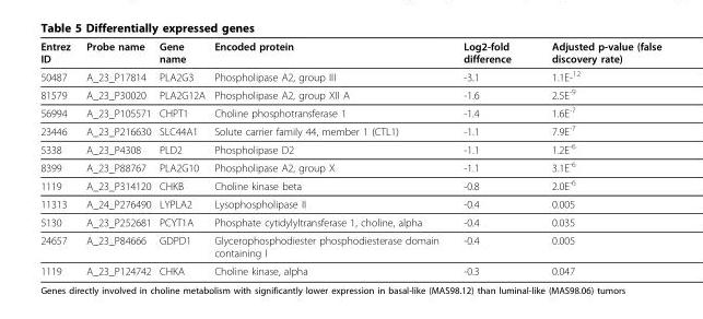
<table><thead><tr><td>Entrez ID</td><td>Probe name</td><td>Gene name</td><td>Encoded protein</td><td>Log2-fold difference</td><td>Adjusted p-value (false discovery rate)</td></tr></thead><tbody><tr><td>50487</td><td>A_23_P17814</td><td>PLA2G3</td><td>Phospholipase A2, group III</td><td>-3.1</td><td>1.1E-<sup>12</sup></td></tr><tr><td>81579</td><td>A_23_P30020</td><td>PLA2G12A</td><td>Phospholipase A2, group XII A</td><td>-1.6</td><td>2.5E<sup>-9</sup></td></tr><tr><td>56994</td><td>A_23_P105571</td><td>CHPT1</td><td>Choline phosphotransferase 1</td><td>-1.4</td><td>1.6E<sup>-7</sup></td></tr><tr><td>23446</td><td>A_23_P216630</td><td>SLC44A1</td><td>Solute carrier family 44, member 1 (CTL1)</td><td>-1.1</td><td>7.9E<sup>-7</sup></td></tr><tr><td>5338</td><td>A_23_P4308</td><td>PLD2</td><td>Phospholipase D2</td><td>-1.1</td><td>1.2E<sup>-6</sup></td></tr><tr><td>8399</td><td>A_23_P88767</td><td>PLA2G10</td><td>Phospholipase A2, group X</td><td>-1.1</td><td>3.1E<sup>-6</sup></td></tr><tr><td>1119</td><td>A_23_P314120</td><td>CHKB</td><td>Choline kinase beta</td><td>-0.8</td><td>2.0E<sup>-6</sup></td></tr><tr><td>11313</td><td>A_24_P276490</td><td>LYPLA2</td><td>Lysophospholipase II</td><td>-0.4</td><td>0.005</td></tr><tr><td>5130</td><td>A_23_P252681</td><td>PCYT1A</td><td>Phosphate cytidylyltransferase 1, choline, alpha</td><td>-0.4</td><td>0.035</td></tr><tr><td>24657</td><td>A_23_P84666</td><td>GDPD1</td><td>Glycerophosphodiester phosphodiesterase domain containing I</td><td>-0.4</td><td>0.005</td></tr><tr><td>1119</td><td>A_23_P124742</td><td>CHKA</td><td>Choline kinase, alpha</td><td>-0.3</td><td>0.047</td></tr></tbody></table>